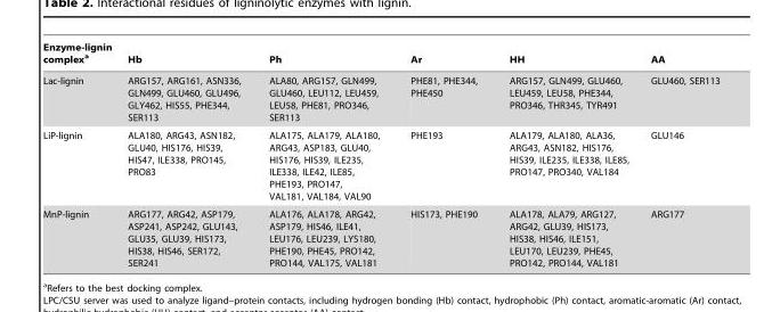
<table><thead><tr><td>Enzyme-lignin complex<sup>a</sup></td><td>Hb</td><td>Ph</td><td>Ar</td><td>HH</td><td>AA</td></tr></thead><tbody><tr><td>Lac-lignin</td><td>ARG157, ARG161, ASN336, GLN499, GLU460, GLU496, GLY462, HIS55, PHE344, SER113</td><td>ALA80, ARG157, GLN499, GLU460, LEU112, LEU459, LEU58, PHE81, PRO346, SER113</td><td>PHE81, PHE344, PHE450</td><td>ARG157, GLN499, GLU460, LEU459, LEU58, PHE344, PRO346, THR345, TYR491</td><td>GLU460, SER113</td></tr><tr><td>LiP-lignin</td><td>ALA180, ARG43, ASN182, GLU40, HIS176, HIS39, HIS47, ILE338, PRO145, PRO83</td><td>ALA175, ALA179, ALA180, ARG43, ASP183, GLU40, HIS176, HIS39, ILE235, ILE338, ILE42, ILE85, PHE193, PRO147, VAL181, VAL184, VAL90</td><td>PHE193</td><td>ALA179, ALA180, ALA36, ARG43, ASN182, HIS176, HIS39, ILE235, ILE338, ILE85, PRO147, PRO340, VAL184</td><td>GLU146</td></tr><tr><td>MnP-lignin</td><td>ARG177, ARG42, ASP179, ASP241, ASP242, GLU143, GLU35, GLU39, HIS173, HIS38, HIS46, SER172, SER241</td><td>ALA176, ALA178, ARG42, ASP179, HIS46, ILE41, LEU176, LEU239, LYS180, PHE190, PHE45, PRO142, PRO144, VAL175, VAL181</td><td>HIS173, PHE190</td><td>ALA178, ALA79, ARG127, ARG42, GLU39, HIS173, HIS38, HIS46, ILE151, LEU170, LEU239, PHE45, PRO142, PRO144, VAL181</td><td>ARG177</td></tr></tbody></table>